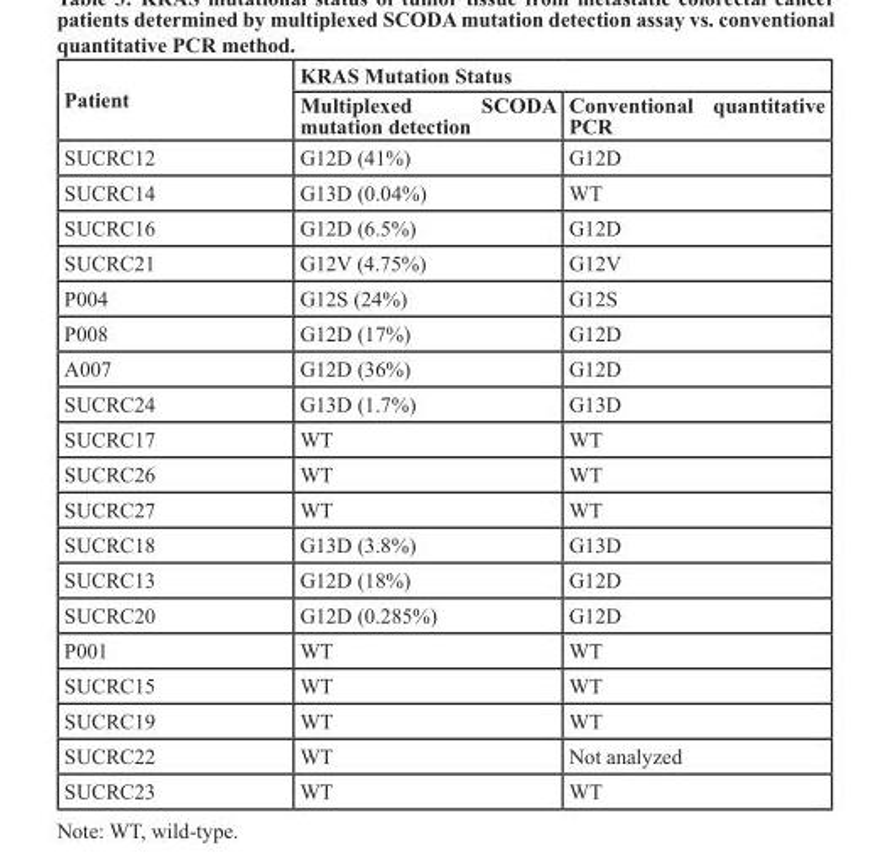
<table><thead><tr><td rowspan="2">Patient</td><td colspan="2">KRAS Mutation Status</td></tr><tr><td>Multiplexed SCODA mutation detection</td><td>Conventional quantitative PCR</td></tr></thead><tbody><tr><td>SUCRC12</td><td>G12D (41%)</td><td>G12D</td></tr><tr><td>SUCRC14</td><td>G13D (0.04%)</td><td>WT</td></tr><tr><td>SUCRC16</td><td>G12D (6.5%)</td><td>G12D</td></tr><tr><td>SUCRC21</td><td>G12V (4.75%)</td><td>G12V</td></tr><tr><td>P004</td><td>G12S (24%)</td><td>G12S</td></tr><tr><td>P008</td><td>G12D (17%)</td><td>G12D</td></tr><tr><td>A007</td><td>G12D (36%)</td><td>G12D</td></tr><tr><td>SUCRC24</td><td>G13D (1.7%)</td><td>G13D</td></tr><tr><td>SUCRC17</td><td>WT</td><td>WT</td></tr><tr><td>SUCRC26</td><td>WT</td><td>WT</td></tr><tr><td>SUCRC27</td><td>WT</td><td>WT</td></tr><tr><td>SUCRC18</td><td>G13D (3.8%)</td><td>G13D</td></tr><tr><td>SUCRC13</td><td>G12D (18%)</td><td>G12D</td></tr><tr><td>SUCRC20</td><td>G12D (0.285%)</td><td>G12D</td></tr><tr><td>P001</td><td>WT</td><td>WT</td></tr><tr><td>SUCRC15</td><td>WT</td><td>WT</td></tr><tr><td>SUCRC19</td><td>WT</td><td>WT</td></tr><tr><td>SUCRC22</td><td>WT</td><td>Not analyzed</td></tr><tr><td>SUCRC23</td><td>WT</td><td>WT</td></tr></tbody></table>